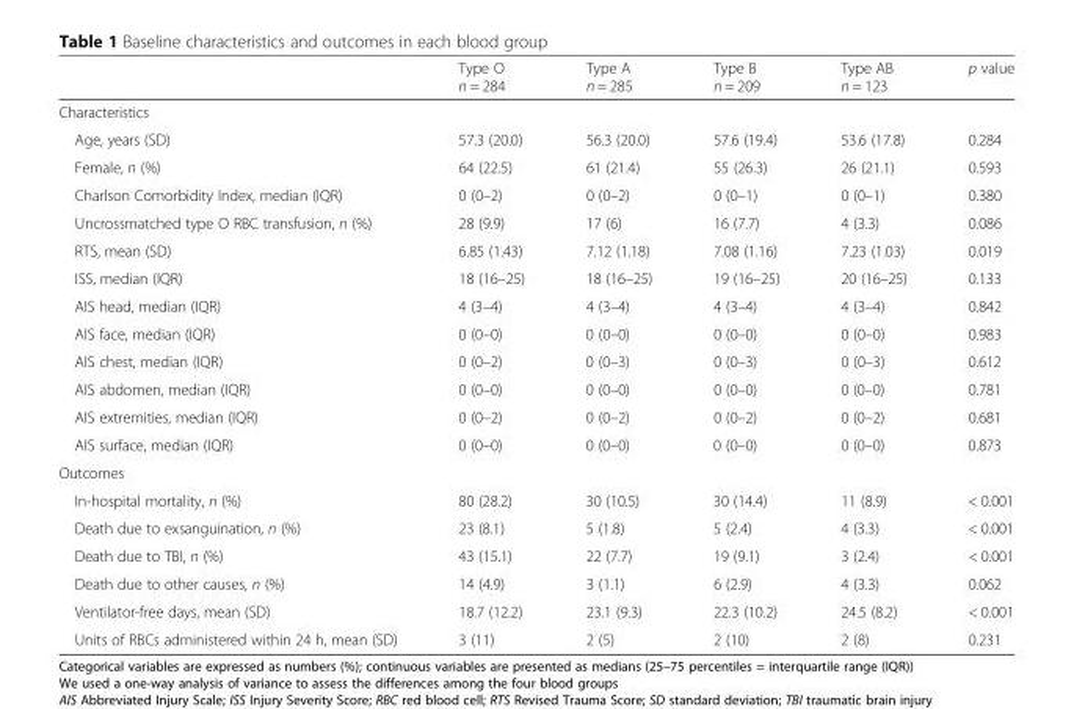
<table><thead><tr><td></td><td>Type O n = 284</td><td>Type A n = 285</td><td>Type B n = 209</td><td>Type AB n = 123</td><td>p value</td></tr></thead><tbody><tr><td colspan="6">Characteristics</td></tr><tr><td>Age, years (SD)</td><td>57.3 (20.0)</td><td>56.3 (20.0)</td><td>57.6 (19.4)</td><td>53.6 (17.8)</td><td>0.284</td></tr><tr><td>Female, n (%)</td><td>64 (22.5)</td><td>61 (21.4)</td><td>55 (26.3)</td><td>26 (21.1)</td><td>0.593</td></tr><tr><td>Charlson Comorbidity Index, median (IQR)</td><td>0 (0–2)</td><td>0 (0–2)</td><td>0 (0–1)</td><td>0 (0–1)</td><td>0.380</td></tr><tr><td>Uncrossmatched type O RBC transfusion, n (%)</td><td>28 (9.9)</td><td>17 (6)</td><td>16 (7.7)</td><td>4 (3.3)</td><td>0.086</td></tr><tr><td>RTS, mean (SD)</td><td>6.85 (1.43)</td><td>7.12 (1.18)</td><td>7.08 (1.16)</td><td>7.23 (1.03)</td><td>0.019</td></tr><tr><td>ISS, median (IQR)</td><td>18 (16–25)</td><td>18 (16–25)</td><td>19 (16–25)</td><td>20 (16–25)</td><td>0.133</td></tr><tr><td>AIS head, median (IQR)</td><td>4 (3–4)</td><td>4 (3–4)</td><td>4 (3–4)</td><td>4 (3–4)</td><td>0.842</td></tr><tr><td>AIS face, median (IQR)</td><td>0 (0–0)</td><td>0 (0–0)</td><td>0 (0–0)</td><td>0 (0–0)</td><td>0.983</td></tr><tr><td>AIS chest, median (IQR)</td><td>0 (0–2)</td><td>0 (0–3)</td><td>0 (0–3)</td><td>0 (0–3)</td><td>0.612</td></tr><tr><td>AIS abdomen, median (IQR)</td><td>0 (0–0)</td><td>0 (0–0)</td><td>0 (0–0)</td><td>0 (0–0)</td><td>0.781</td></tr><tr><td>AIS extremities, median (IQR)</td><td>0 (0–2)</td><td>0 (0–2)</td><td>0 (0–2)</td><td>0 (0–2)</td><td>0.681</td></tr><tr><td>AIS surface, median (IQR)</td><td>0 (0–0)</td><td>0 (0–0)</td><td>0 (0–0)</td><td>0 (0–0)</td><td>0.873</td></tr><tr><td colspan="6">Outcomes</td></tr><tr><td>In-hospital mortality, n (%)</td><td>80 (28.2)</td><td>30 (10.5)</td><td>30 (14.4)</td><td>11 (8.9)</td><td>&lt; 0.001</td></tr><tr><td>Death due to exsanguination, n (%)</td><td>23 (8.1)</td><td>5 (1.8)</td><td>5 (2.4)</td><td>4 (3.3)</td><td>&lt; 0.001</td></tr><tr><td>Death due to TBI, n (%)</td><td>43 (15.1)</td><td>22 (7.7)</td><td>19 (9.1)</td><td>3 (2.4)</td><td>&lt; 0.001</td></tr><tr><td>Death due to other causes, n (%)</td><td>14 (4.9)</td><td>3 (1.1)</td><td>6 (2.9)</td><td>4 (3.3)</td><td>0.062</td></tr><tr><td>Ventilator-free days, mean (SD)</td><td>18.7 (12.2)</td><td>23.1 (9.3)</td><td>22.3 (10.2)</td><td>24.5 (8.2)</td><td>&lt; 0.001</td></tr><tr><td>Units of RBCs administered within 24 h, mean (SD)</td><td>3 (11)</td><td>2 (5)</td><td>2 (10)</td><td>2 (8)</td><td>0.231</td></tr></tbody></table>